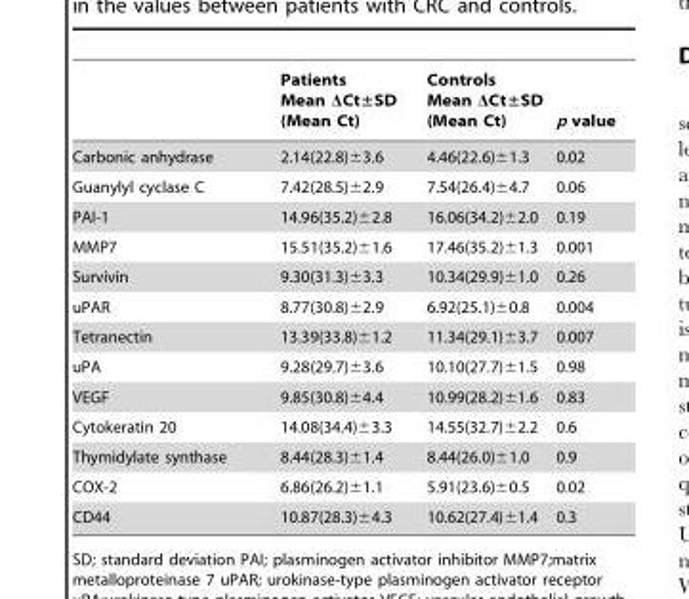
<table><thead><tr><td></td><td>Patients Mean ΔCt±SD (Mean Ct)</td><td>Controls Mean ΔCt±SD (Mean Ct)</td><td>p value</td></tr></thead><tbody><tr><td>Carbonic anhydrase</td><td>2.14(22.8)±3.6</td><td>4.46(22.6)±1.3</td><td>0.02</td></tr><tr><td>Guanylyl cyclase C</td><td>7.42(28.5)±2.9</td><td>7.54(26.4)±4.7</td><td>0.06</td></tr><tr><td>PAI-1</td><td>14.96(35.2)±2.8</td><td>16.06(34.2)±2.0</td><td>0.19</td></tr><tr><td>MMP7</td><td>15.51(35.2)±1.6</td><td>17.46(35.2)±1.3</td><td>0.001</td></tr><tr><td>Survivin</td><td>9.30(31.3)±3.3</td><td>10.34(29.9)±1.0</td><td>0.26</td></tr><tr><td>uPAR</td><td>8.77(30.8)±2.9</td><td>6.92(25.1)±0.8</td><td>0.004</td></tr><tr><td>Tetranectin</td><td>13.39(33.8)±1.2</td><td>11.34(29.1)±3.7</td><td>0.007</td></tr><tr><td>uPA</td><td>9.28(29.7)±3.6</td><td>10.10(27.7)±1.5</td><td>0.98</td></tr><tr><td>VEGF</td><td>9.85(30.8)±4.4</td><td>10.99(28.2)±1.6</td><td>0.83</td></tr><tr><td>Cytokeratin 20</td><td>14.08(34.4)±3.3</td><td>14.55(32.7)±2.2</td><td>0.6</td></tr><tr><td>Thymidylate synthase</td><td>8.44(28.3)±1.4</td><td>8.44(26.0)±1.0</td><td>0.9</td></tr><tr><td>COX-2</td><td>6.86(26.2)±1.1</td><td>5.91(23.6)±0.5</td><td>0.02</td></tr><tr><td>CD44</td><td>10.87(28.3)±4.3</td><td>10.62(27.4)±1.4</td><td>0.3</td></tr></tbody></table>